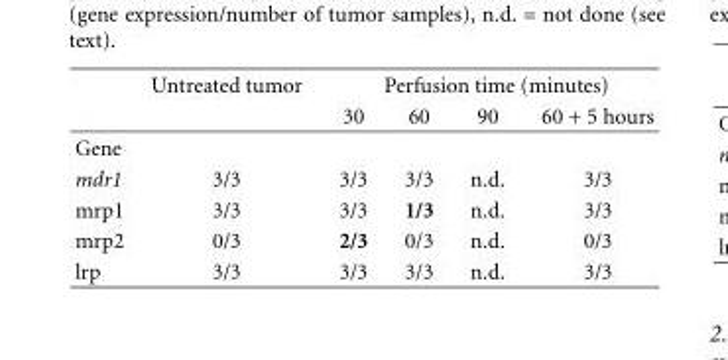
<table><thead><tr><td rowspan="2"></td><td rowspan="2">Untreated tumor</td><td colspan="4">Perfusion time (minutes)</td></tr><tr><td>30</td><td>60</td><td>90</td><td>60 + 5 hours</td></tr></thead><tbody><tr><td colspan="6">Gene</td></tr><tr><td>mdr1</td><td>3/3</td><td>3/3</td><td>3/3</td><td>n.d.</td><td>3/3</td></tr><tr><td>mrp1</td><td>3/3</td><td>3/3</td><td>1/3</td><td>n.d.</td><td>3/3</td></tr><tr><td>mrp2</td><td>0/3</td><td>2/3</td><td>0/3</td><td>n.d.</td><td>0/3</td></tr><tr><td>lrp</td><td>3/3</td><td>3/3</td><td>3/3</td><td>n.d.</td><td>3/3</td></tr></tbody></table>